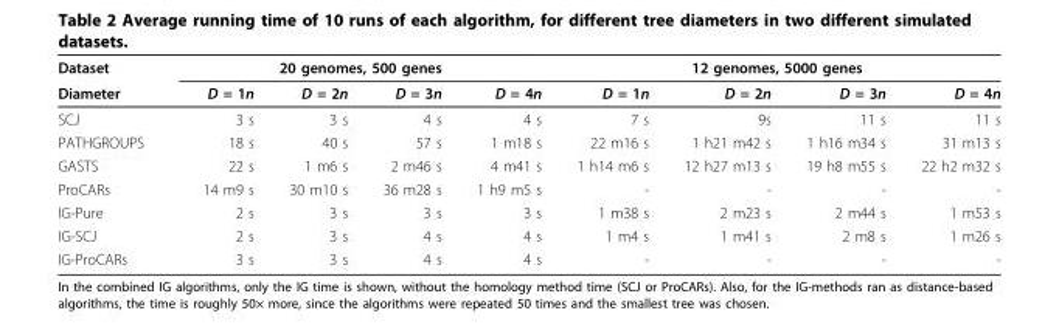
<table><thead><tr><td rowspan="2">Dataset Diameter</td><td colspan="4">20 genomes, 500 genes</td><td colspan="4">12 genomes, 5000 genes</td></tr><tr><td>D = 1n</td><td>D = 2n</td><td>D = 3n</td><td>D = 4n</td><td>D = 1n</td><td>D = 2n</td><td>D = 3n</td><td>D = 4n</td></tr></thead><tbody><tr><td>SCJ</td><td>3 s</td><td>3 s</td><td>4 s</td><td>4 s</td><td>7 s</td><td>9s</td><td>11 s</td><td>11 s</td></tr><tr><td>PATHGROUPS</td><td>18 s</td><td>40 s</td><td>57 s</td><td>1 m18 s</td><td>22 m16 s</td><td>1 h21 m42 s</td><td>1 h16 m34 s</td><td>31 m13 s</td></tr><tr><td>GASTS</td><td>22 s</td><td>1 m6 s</td><td>2 m46 s</td><td>4 m41 s</td><td>1 h14 m6 s</td><td>12 h27 m13 s</td><td>19 h8 m55 s</td><td>22 h2 m32 s</td></tr><tr><td>ProCARs</td><td>14 m9 s</td><td>30 m10 s</td><td>36 m28 s</td><td>1 h9 m5 s</td><td>-</td><td>-</td><td>-</td><td>-</td></tr><tr><td>IG-Pure</td><td>2 s</td><td>3 s</td><td>3 s</td><td>3 s</td><td>1 m38 s</td><td>2 m23 s</td><td>2 m44 s</td><td>1 m53 s</td></tr><tr><td>IG-SCJ</td><td>2 s</td><td>3 s</td><td>4 s</td><td>4 s</td><td>1 m4 s</td><td>1 m41 s</td><td>2 m8 s</td><td>1 m26 s</td></tr><tr><td>IG-ProCARs</td><td>3 s</td><td>3 s</td><td>4 s</td><td>4 s</td><td>-</td><td>-</td><td>-</td><td>-</td></tr></tbody></table>